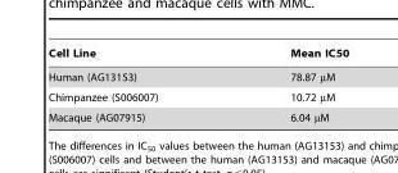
<table><thead><tr><td>Cell Line</td><td>Mean IC50</td></tr></thead><tbody><tr><td>Human (AG13153)</td><td>78.87 µM</td></tr><tr><td>Chimpanzee (S006007)</td><td>10.72 µM</td></tr><tr><td>Macaque (AG07915)</td><td>6.04 µM</td></tr></tbody></table>